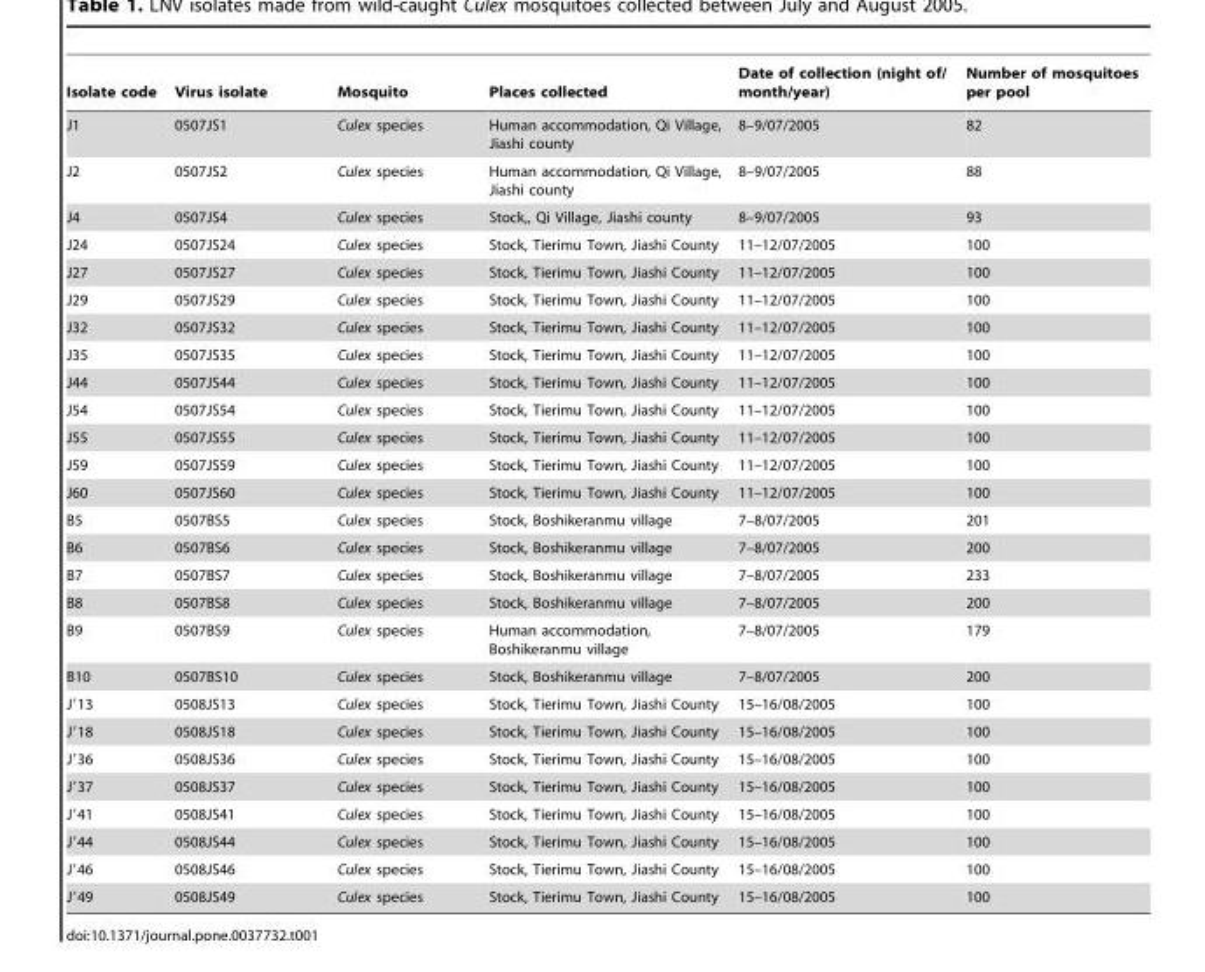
<table><thead><tr><td>Isolate code</td><td>Virus isolate</td><td>Mosquito</td><td>Places collected</td><td>Date of collection (night of/ month/year)</td><td>Number of mosquitoes per pool</td></tr></thead><tbody><tr><td>J1</td><td>0507JS1</td><td>Culex species</td><td>Human accommodation, Qi Village, Jiashi county</td><td>8–9/07/2005</td><td>82</td></tr><tr><td>J2</td><td>0507JS2</td><td>Culex species</td><td>Human accommodation, Qi Village, Jiashi county</td><td>8–9/07/2005</td><td>88</td></tr><tr><td>J4</td><td>0507JS4</td><td>Culex species</td><td>Stock,, Qi Village, Jiashi county</td><td>8–9/07/2005</td><td>93</td></tr><tr><td>J24</td><td>0507JS24</td><td>Culex species</td><td>Stock, Tierimu Town, Jiashi County</td><td>11–12/07/2005</td><td>100</td></tr><tr><td>J27</td><td>0507JS27</td><td>Culex species</td><td>Stock, Tierimu Town, Jiashi County</td><td>11–12/07/2005</td><td>100</td></tr><tr><td>J29</td><td>0507JS29</td><td>Culex species</td><td>Stock, Tierimu Town, Jiashi County</td><td>11–12/07/2005</td><td>100</td></tr><tr><td>J32</td><td>0507JS32</td><td>Culex species</td><td>Stock, Tierimu Town, Jiashi County</td><td>11–12/07/2005</td><td>100</td></tr><tr><td>J35</td><td>0507JS35</td><td>Culex species</td><td>Stock, Tierimu Town, Jiashi County</td><td>11–12/07/2005</td><td>100</td></tr><tr><td>J44</td><td>0507JS44</td><td>Culex species</td><td>Stock, Tierimu Town, Jiashi County</td><td>11–12/07/2005</td><td>100</td></tr><tr><td>J54</td><td>0507JS54</td><td>Culex species</td><td>Stock, Tierimu Town, Jiashi County</td><td>11–12/07/2005</td><td>100</td></tr><tr><td>J55</td><td>0507JS55</td><td>Culex species</td><td>Stock, Tierimu Town, Jiashi County</td><td>11–12/07/2005</td><td>100</td></tr><tr><td>J59</td><td>0507JS59</td><td>Culex species</td><td>Stock, Tierimu Town, Jiashi County</td><td>11–12/07/2005</td><td>100</td></tr><tr><td>J60</td><td>0507JS60</td><td>Culex species</td><td>Stock, Tierimu Town, Jiashi County</td><td>11–12/07/2005</td><td>100</td></tr><tr><td>B5</td><td>0507BS5</td><td>Culex species</td><td>Stock, Boshikeranmu village</td><td>7–8/07/2005</td><td>201</td></tr><tr><td>B6</td><td>0507BS6</td><td>Culex species</td><td>Stock, Boshikeranmu village</td><td>7–8/07/2005</td><td>200</td></tr><tr><td>B7</td><td>0507BS7</td><td>Culex species</td><td>Stock, Boshikeranmu village</td><td>7–8/07/2005</td><td>233</td></tr><tr><td>B8</td><td>0507BS8</td><td>Culex species</td><td>Stock, Boshikeranmu village</td><td>7–8/07/2005</td><td>200</td></tr><tr><td>B9</td><td>0507BS9</td><td>Culex species</td><td>Human accommodation, Boshikeranmu village</td><td>7–8/07/2005</td><td>179</td></tr><tr><td>B10</td><td>0507BS10</td><td>Culex species</td><td>Stock, Boshikeranmu village</td><td>7–8/07/2005</td><td>200</td></tr><tr><td>J′13</td><td>0508JS13</td><td>Culex species</td><td>Stock, Tierimu Town, Jiashi County</td><td>15–16/08/2005</td><td>100</td></tr><tr><td>J′18</td><td>0508JS18</td><td>Culex species</td><td>Stock, Tierimu Town, Jiashi County</td><td>15–16/08/2005</td><td>100</td></tr><tr><td>J′36</td><td>0508JS36</td><td>Culex species</td><td>Stock, Tierimu Town, Jiashi County</td><td>15–16/08/2005</td><td>100</td></tr><tr><td>J′37</td><td>0508JS37</td><td>Culex species</td><td>Stock, Tierimu Town, Jiashi County</td><td>15–16/08/2005</td><td>100</td></tr><tr><td>J′41</td><td>0508JS41</td><td>Culex species</td><td>Stock, Tierimu Town, Jiashi County</td><td>15–16/08/2005</td><td>100</td></tr><tr><td>J′44</td><td>0508JS44</td><td>Culex species</td><td>Stock, Tierimu Town, Jiashi County</td><td>15–16/08/2005</td><td>100</td></tr><tr><td>J′46</td><td>0508JS46</td><td>Culex species</td><td>Stock, Tierimu Town, Jiashi County</td><td>15–16/08/2005</td><td>100</td></tr><tr><td>J′49</td><td>0508JS49</td><td>Culex species</td><td>Stock, Tierimu Town, Jiashi County</td><td>15–16/08/2005</td><td>100</td></tr></tbody></table>